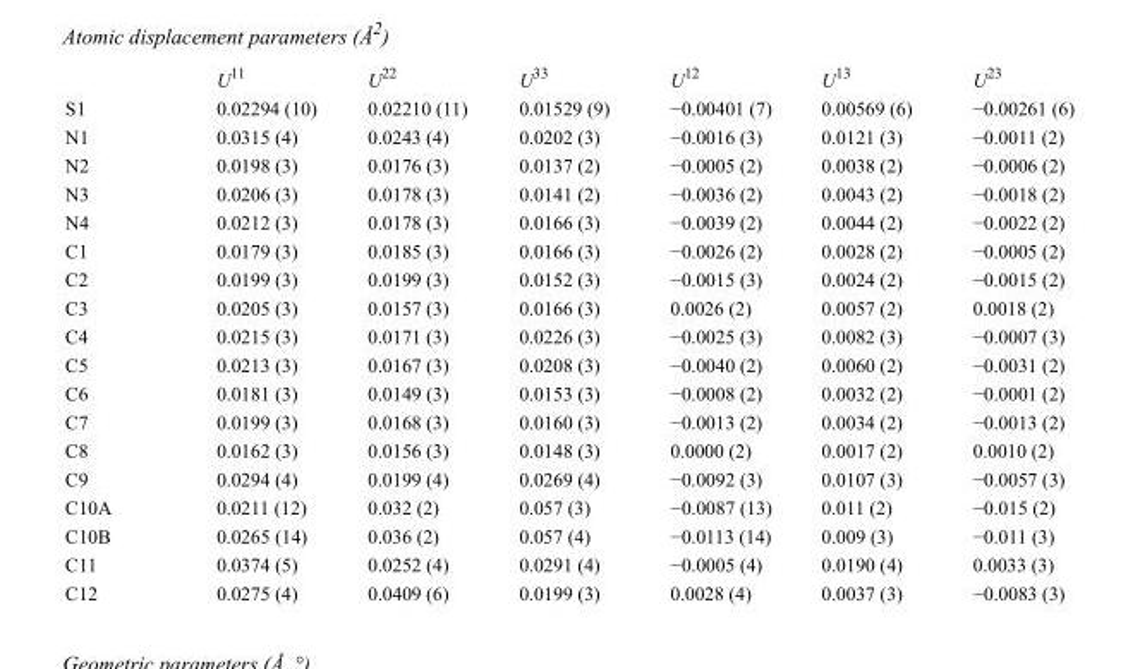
<table><thead><tr><td></td><td>U<sup>11</sup></td><td>U<sup>22</sup></td><td>U<sup>33</sup></td><td>U<sup>12</sup></td><td>U<sup>13</sup></td><td>U<sup>23</sup></td></tr></thead><tbody><tr><td>S1</td><td>0.02294 (10)</td><td>0.02210 (11)</td><td>0.01529 (9)</td><td>−0.00401 (7)</td><td>0.00569 (6)</td><td>−0.00261 (6)</td></tr><tr><td>N1</td><td>0.0315 (4)</td><td>0.0243 (4)</td><td>0.0202 (3)</td><td>−0.0016 (3)</td><td>0.0121 (3)</td><td>−0.0011 (2)</td></tr><tr><td>N2</td><td>0.0198 (3)</td><td>0.0176 (3)</td><td>0.0137 (2)</td><td>−0.0005 (2)</td><td>0.0038 (2)</td><td>−0.0006 (2)</td></tr><tr><td>N3</td><td>0.0206 (3)</td><td>0.0178 (3)</td><td>0.0141 (2)</td><td>−0.0036 (2)</td><td>0.0043 (2)</td><td>−0.0018 (2)</td></tr><tr><td>N4</td><td>0.0212 (3)</td><td>0.0178 (3)</td><td>0.0166 (3)</td><td>−0.0039 (2)</td><td>0.0044 (2)</td><td>−0.0022 (2)</td></tr><tr><td>C1</td><td>0.0179 (3)</td><td>0.0185 (3)</td><td>0.0166 (3)</td><td>−0.0026 (2)</td><td>0.0028 (2)</td><td>−0.0005 (2)</td></tr><tr><td>C2</td><td>0.0199 (3)</td><td>0.0199 (3)</td><td>0.0152 (3)</td><td>−0.0015 (3)</td><td>0.0024 (2)</td><td>−0.0015 (2)</td></tr><tr><td>C3</td><td>0.0205 (3)</td><td>0.0157 (3)</td><td>0.0166 (3)</td><td>0.0026 (2)</td><td>0.0057 (2)</td><td>0.0018 (2)</td></tr><tr><td>C4</td><td>0.0215 (3)</td><td>0.0171 (3)</td><td>0.0226 (3)</td><td>−0.0025 (3)</td><td>0.0082 (3)</td><td>−0.0007 (3)</td></tr><tr><td>C5</td><td>0.0213 (3)</td><td>0.0167 (3)</td><td>0.0208 (3)</td><td>−0.0040 (2)</td><td>0.0060 (2)</td><td>−0.0031 (2)</td></tr><tr><td>C6</td><td>0.0181 (3)</td><td>0.0149 (3)</td><td>0.0153 (3)</td><td>−0.0008 (2)</td><td>0.0032 (2)</td><td>−0.0001 (2)</td></tr><tr><td>C7</td><td>0.0199 (3)</td><td>0.0168 (3)</td><td>0.0160 (3)</td><td>−0.0013 (2)</td><td>0.0034 (2)</td><td>−0.0013 (2)</td></tr><tr><td>C8</td><td>0.0162 (3)</td><td>0.0156 (3)</td><td>0.0148 (3)</td><td>0.0000 (2)</td><td>0.0017 (2)</td><td>0.0010 (2)</td></tr><tr><td>C9</td><td>0.0294 (4)</td><td>0.0199 (4)</td><td>0.0269 (4)</td><td>−0.0092 (3)</td><td>0.0107 (3)</td><td>−0.0057 (3)</td></tr><tr><td>C10A</td><td>0.0211 (12)</td><td>0.032 (2)</td><td>0.057 (3)</td><td>−0.0087 (13)</td><td>0.011 (2)</td><td>−0.015 (2)</td></tr><tr><td>C10B</td><td>0.0265 (14)</td><td>0.036 (2)</td><td>0.057 (4)</td><td>−0.0113 (14)</td><td>0.009 (3)</td><td>−0.011 (3)</td></tr><tr><td>C11</td><td>0.0374 (5)</td><td>0.0252 (4)</td><td>0.0291 (4)</td><td>−0.0005 (4)</td><td>0.0190 (4)</td><td>0.0033 (3)</td></tr><tr><td>C12</td><td>0.0275 (4)</td><td>0.0409 (6)</td><td>0.0199 (3)</td><td>0.0028 (4)</td><td>0.0037 (3)</td><td>−0.0083 (3)</td></tr></tbody></table>